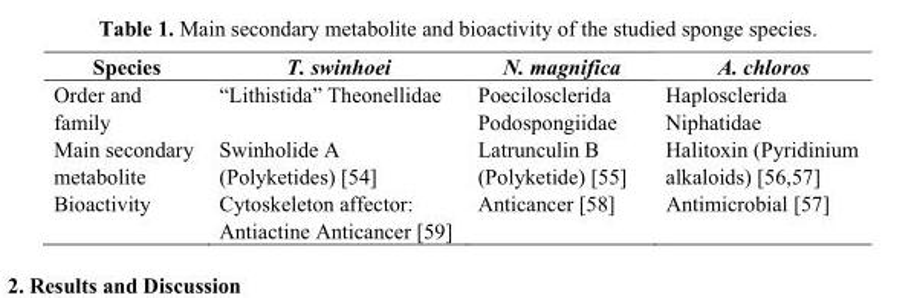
<table><thead><tr><td>Species</td><td>T. swinhoei</td><td>N. magnifica</td><td>A. chloros</td></tr></thead><tbody><tr><td>Order and family</td><td>“Lithistida” Theonellidae</td><td>Poecilosclerida Podospongiidae</td><td>Haplosclerida Niphatidae</td></tr><tr><td>Main secondary metabolite</td><td>Swinholide A (Polyketides) [54]</td><td>Latrunculin B (Polyketide) [55]</td><td>Halitoxin (Pyridinium alkaloids) [56,57]</td></tr><tr><td>Bioactivity</td><td>Cytoskeleton affector: Antiactine Anticancer [59]</td><td>Anticancer [58]</td><td>Antimicrobial [57]</td></tr></tbody></table>